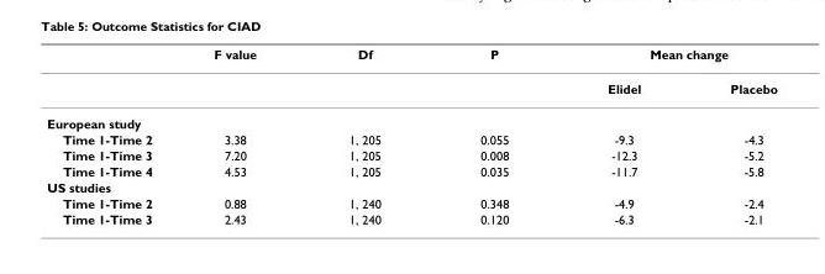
<table><thead><tr><td rowspan="2"></td><td rowspan="2">F value</td><td rowspan="2">Df</td><td rowspan="2">P</td><td colspan="2">Mean change</td></tr><tr><td>Elidel</td><td>Placebo</td></tr></thead><tbody><tr><td colspan="6">European study</td></tr><tr><td>Time 1-Time 2</td><td>3.38</td><td>1, 205</td><td>0.055</td><td>-9.3</td><td>-4.3</td></tr><tr><td>Time 1-Time 3</td><td>7.20</td><td>1, 205</td><td>0.008</td><td>-12.3</td><td>-5.2</td></tr><tr><td>Time 1-Time 4</td><td>4.53</td><td>1, 205</td><td>0.035</td><td>-11.7</td><td>-5.8</td></tr><tr><td colspan="6">US studies</td></tr><tr><td>Time 1-Time 2</td><td>0.88</td><td>1, 240</td><td>0.348</td><td>-4.9</td><td>-2.4</td></tr><tr><td>Time 1-Time 3</td><td>2.43</td><td>1, 240</td><td>0.120</td><td>-6.3</td><td>-2.1</td></tr></tbody></table>